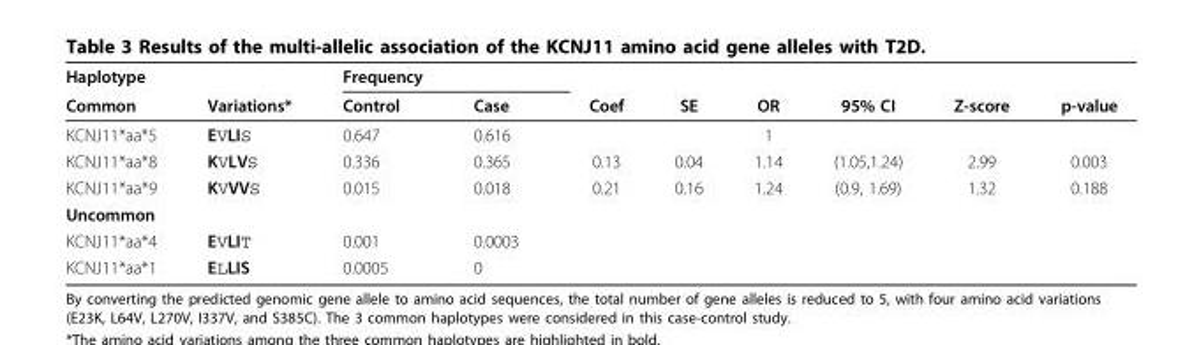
<table><thead><tr><td rowspan="2">Haplotype Common</td><td rowspan="2">Variations*</td><td rowspan="2">Frequency Control</td><td rowspan="2">Case</td><td rowspan="2">Coef</td><td rowspan="2">SE</td><td rowspan="2">OR</td><td rowspan="2">95% CI</td><td rowspan="2">Z-score</td><td rowspan="2">p-value</td></tr><tr></tr></thead><tbody><tr><td>KCNJ11*aa*5</td><td>EVLIS</td><td>0.647</td><td>0.616</td><td></td><td></td><td>1</td><td></td><td></td><td></td></tr><tr><td>KCNJ11*aa*8</td><td>KVLVS</td><td>0.336</td><td>0.365</td><td>0.13</td><td>0.04</td><td>1.14</td><td>(1.05,1.24)</td><td>2.99</td><td>0.003</td></tr><tr><td>KCNJ11*aa*9</td><td>KVVVS</td><td>0.015</td><td>0.018</td><td>0.21</td><td>0.16</td><td>1.24</td><td>(0.9, 1.69)</td><td>1.32</td><td>0.188</td></tr><tr><td colspan="10">Uncommon</td></tr><tr><td>KCNJ11*aa*4</td><td>EVLIT</td><td>0.001</td><td>0.0003</td><td></td><td></td><td></td><td></td><td></td><td></td></tr><tr><td>KCNJ11*aa*1</td><td>ELLIS</td><td>0.0005</td><td>0</td><td></td><td></td><td></td><td></td><td></td><td></td></tr></tbody></table>